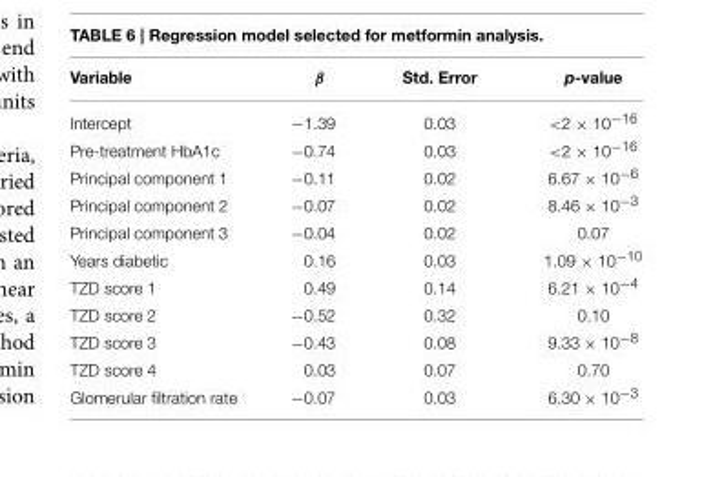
<table><thead><tr><td>Variable</td><td>β</td><td>Std. Error</td><td>p-value</td></tr></thead><tbody><tr><td>Intercept</td><td>−1.39</td><td>0.03</td><td>&lt;2 × 10<sup>−16</sup></td></tr><tr><td>Pre-treatment HbA1c</td><td>−0.74</td><td>0.03</td><td>&lt;2 × 10<sup>−16</sup></td></tr><tr><td>Principal component 1</td><td>−0.11</td><td>0.02</td><td>6.67 × 10<sup>−6</sup></td></tr><tr><td>Principal component 2</td><td>−0.07</td><td>0.02</td><td>8.46 × 10<sup>−3</sup></td></tr><tr><td>Principal component 3</td><td>−0.04</td><td>0.02</td><td>0.07</td></tr><tr><td>Years diabetic</td><td>0.16</td><td>0.03</td><td>1.09 × 10<sup>−10</sup></td></tr><tr><td>TZD score 1</td><td>0.49</td><td>0.14</td><td>6.21 × 10<sup>−4</sup></td></tr><tr><td>TZD score 2</td><td>−0.52</td><td>0.32</td><td>0.10</td></tr><tr><td>TZD score 3</td><td>−0.43</td><td>0.08</td><td>9.33 × 10<sup>−8</sup></td></tr><tr><td>TZD score 4</td><td>0.03</td><td>0.07</td><td>0.70</td></tr><tr><td>Glomerular filtration rate</td><td>−0.07</td><td>0.03</td><td>6.30 × 10<sup>−3</sup></td></tr></tbody></table>